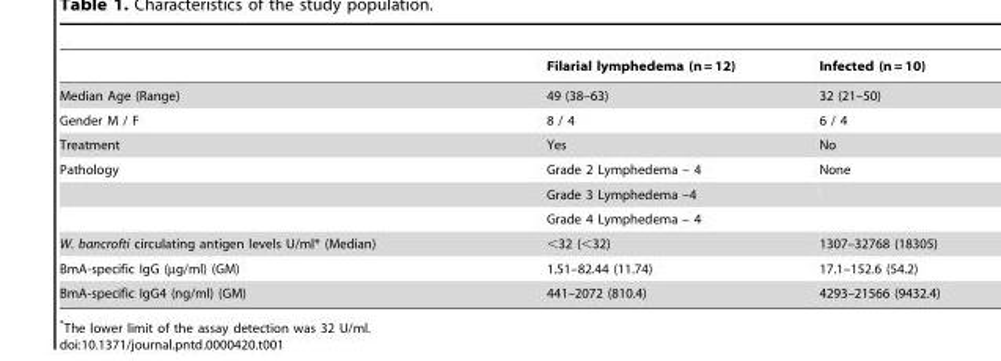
<table><thead><tr><td></td><td>Filarial lymphedema (n = 12)</td><td>Infected (n = 10)</td></tr></thead><tbody><tr><td>Median Age (Range)</td><td>49 (38–63)</td><td>32 (21–50)</td></tr><tr><td>Gender M / F</td><td>8 / 4</td><td>6 / 4</td></tr><tr><td>Treatment</td><td>Yes</td><td>No</td></tr><tr><td rowspan="3">Pathology</td><td>Grade 2 Lymphedema – 4</td><td>None</td></tr><tr><td>Grade 3 Lymphedema –4</td><td></td></tr><tr><td>Grade 4 Lymphedema – 4</td><td></td></tr><tr><td>W. bancrofti circulating antigen levels U/ml* (Median)</td><td>&lt;32 (&lt;32)</td><td>1307–32768 (18305)</td></tr><tr><td>BmA-specific IgG (µg/ml) (GM)</td><td>1.51–82.44 (11.74)</td><td>17.1–152.6 (54.2)</td></tr><tr><td>BmA-specific IgG4 (ng/ml) (GM)</td><td>441–2072 (810.4)</td><td>4293–21566 (9432.4)</td></tr></tbody></table>